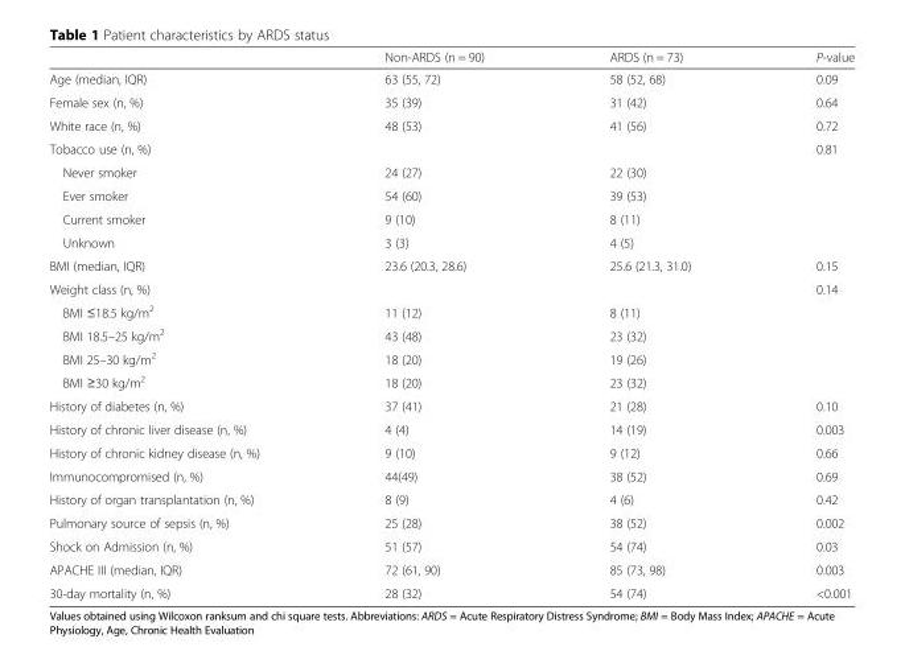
<table><thead><tr><td></td><td>Non-ARDS (n = 90)</td><td>ARDS (n = 73)</td><td>P-value</td></tr></thead><tbody><tr><td>Age (median, IQR)</td><td>63 (55, 72)</td><td>58 (52, 68)</td><td>0.09</td></tr><tr><td>Female sex (n, %)</td><td>35 (39)</td><td>31 (42)</td><td>0.64</td></tr><tr><td>White race (n, %)</td><td>48 (53)</td><td>41 (56)</td><td>0.72</td></tr><tr><td>Tobacco use (n, %)</td><td></td><td></td><td>0.81</td></tr><tr><td>Never smoker</td><td>24 (27)</td><td>22 (30)</td><td></td></tr><tr><td>Ever smoker</td><td>54 (60)</td><td>39 (53)</td><td></td></tr><tr><td>Current smoker</td><td>9 (10)</td><td>8 (11)</td><td></td></tr><tr><td>Unknown</td><td>3 (3)</td><td>4 (5)</td><td></td></tr><tr><td>BMI (median, IQR)</td><td>23.6 (20.3, 28.6)</td><td>25.6 (21.3, 31.0)</td><td>0.15</td></tr><tr><td>Weight class (n, %)</td><td></td><td></td><td>0.14</td></tr><tr><td>BMI ≤18.5 kg/m<sup>2</sup></td><td>11 (12)</td><td>8 (11)</td><td></td></tr><tr><td>BMI 18.5–25 kg/m<sup>2</sup></td><td>43 (48)</td><td>23 (32)</td><td></td></tr><tr><td>BMI 25–30 kg/m<sup>2</sup></td><td>18 (20)</td><td>19 (26)</td><td></td></tr><tr><td>BMI ≥30 kg/m<sup>2</sup></td><td>18 (20)</td><td>23 (32)</td><td></td></tr><tr><td>History of diabetes (n, %)</td><td>37 (41)</td><td>21 (28)</td><td>0.10</td></tr><tr><td>History of chronic liver disease (n, %)</td><td>4 (4)</td><td>14 (19)</td><td>0.003</td></tr><tr><td>History of chronic kidney disease (n, %)</td><td>9 (10)</td><td>9 (12)</td><td>0.66</td></tr><tr><td>Immunocompromised (n, %)</td><td>44(49)</td><td>38 (52)</td><td>0.69</td></tr><tr><td>History of organ transplantation (n, %)</td><td>8 (9)</td><td>4 (6)</td><td>0.42</td></tr><tr><td>Pulmonary source of sepsis (n, %)</td><td>25 (28)</td><td>38 (52)</td><td>0.002</td></tr><tr><td>Shock on Admission (n, %)</td><td>51 (57)</td><td>54 (74)</td><td>0.03</td></tr><tr><td>APACHE III (median, IQR)</td><td>72 (61, 90)</td><td>85 (73, 98)</td><td>0.003</td></tr><tr><td>30-day mortality (n, %)</td><td>28 (32)</td><td>54 (74)</td><td>&lt;0.001</td></tr></tbody></table>